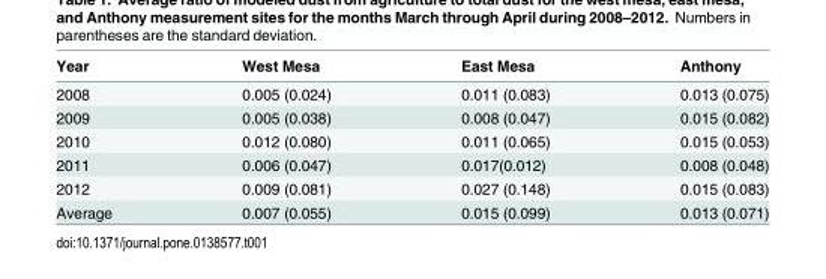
<table><thead><tr><td>Year</td><td>West Mesa</td><td>East Mesa</td><td>Anthony</td></tr></thead><tbody><tr><td>2008</td><td>0.005 (0.024)</td><td>0.011 (0.083)</td><td>0.013 (0.075)</td></tr><tr><td>2009</td><td>0.005 (0.038)</td><td>0.008 (0.047)</td><td>0.015 (0.082)</td></tr><tr><td>2010</td><td>0.012 (0.080)</td><td>0.011 (0.065)</td><td>0.015 (0.053)</td></tr><tr><td>2011</td><td>0.006 (0.047)</td><td>0.017(0.012)</td><td>0.008 (0.048)</td></tr><tr><td>2012</td><td>0.009 (0.081)</td><td>0.027 (0.148)</td><td>0.015 (0.083)</td></tr><tr><td>Average</td><td>0.007 (0.055)</td><td>0.015 (0.099)</td><td>0.013 (0.071)</td></tr></tbody></table>